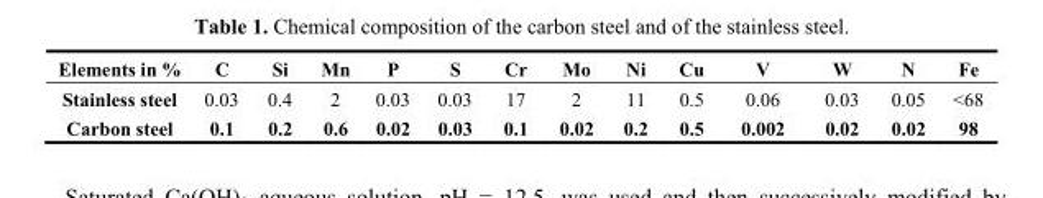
<table><thead><tr><td>Elements in %</td><td>C</td><td>Si</td><td>Mn</td><td>P</td><td>S</td><td>Cr</td><td>Mo</td><td>Ni</td><td>Cu</td><td>V</td><td>W</td><td>N</td><td>Fe</td></tr></thead><tbody><tr><td>Stainless steel</td><td>0.03</td><td>0.4</td><td>2</td><td>0.03</td><td>0.03</td><td>17</td><td>2</td><td>11</td><td>0.5</td><td>0.06</td><td>0.03</td><td>0.05</td><td>&lt;68</td></tr><tr><td>Carbon steel</td><td>0.1</td><td>0.2</td><td>0.6</td><td>0.02</td><td>0.03</td><td>0.1</td><td>0.02</td><td>0.2</td><td>0.5</td><td>0.002</td><td>0.02</td><td>0.02</td><td>98</td></tr></tbody></table>